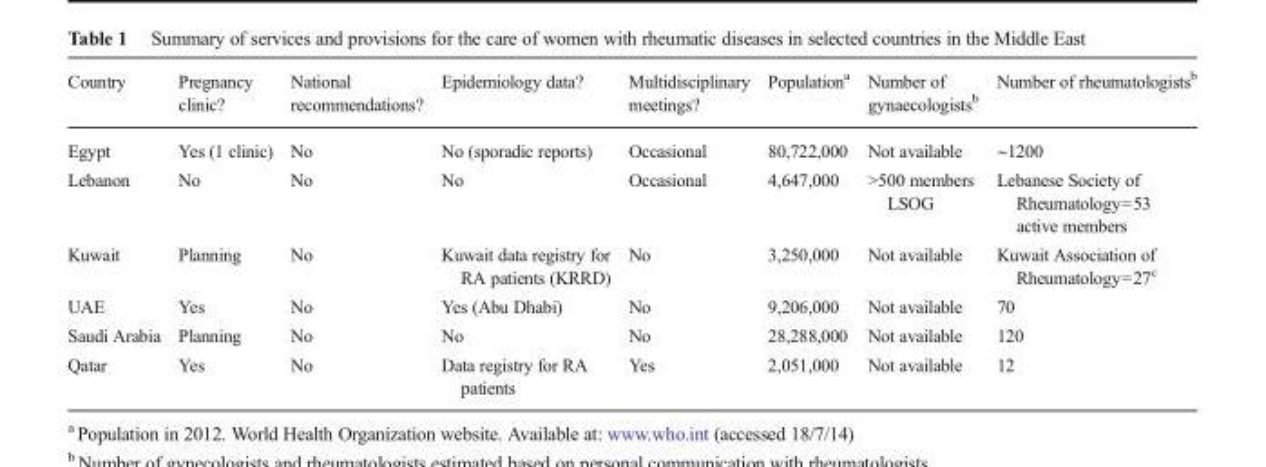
<table><thead><tr><td>Country</td><td>Pregnancy clinic?</td><td>National recommendations?</td><td>Epidemiology data?</td><td>Multidisciplinary meetings?</td><td>Population<sup>a</sup></td><td>Number of gynaecologists<sup>b</sup></td><td>Number of rheumatologists<sup>b</sup></td></tr></thead><tbody><tr><td>Egypt</td><td>Yes (1 clinic)</td><td>No</td><td>No (sporadic reports)</td><td>Occasional</td><td>80,722,000</td><td>Not available</td><td>∼1200</td></tr><tr><td>Lebanon</td><td>No</td><td>No</td><td>No</td><td>Occasional</td><td>4,647,000</td><td>&gt;500 members LSOG</td><td>Lebanese Society of Rheumatology=53 active members</td></tr><tr><td>Kuwait</td><td>Planning</td><td>No</td><td>Kuwait data registry for RA patients (KRRD)</td><td>No</td><td>3,250,000</td><td>Not available</td><td>Kuwait Association of Rheumatology=27<sup>c</sup></td></tr><tr><td>UAE</td><td>Yes</td><td>No</td><td>Yes (Abu Dhabi)</td><td>No</td><td>9,206,000</td><td>Not available</td><td>70</td></tr><tr><td>Saudi Arabia</td><td>Planning</td><td>No</td><td>No</td><td>No</td><td>28,288,000</td><td>Not available</td><td>120</td></tr><tr><td>Qatar</td><td>Yes</td><td>No</td><td>Data registry for RA patients</td><td>Yes</td><td>2,051,000</td><td>Not available</td><td>12</td></tr></tbody></table>